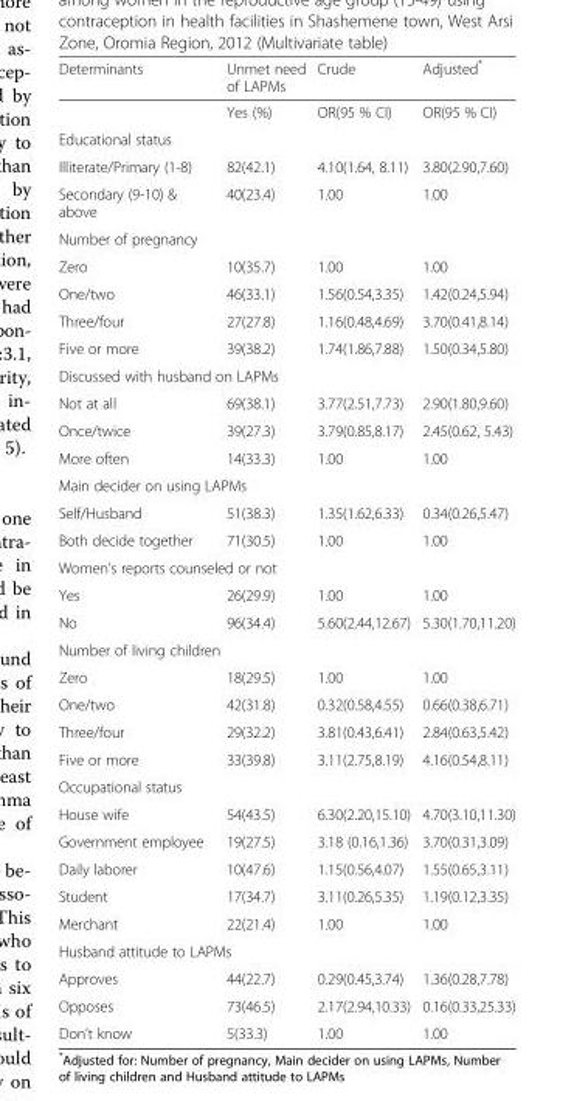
<table><thead><tr><td>Determinants</td><td>Unmet need of LAPMs</td><td>Crude</td><td>Adjusted*</td></tr></thead><tbody><tr><td></td><td>Yes (%)</td><td>OR(95 % CI)</td><td>OR(95 % CI)</td></tr><tr><td colspan="4">Educational status</td></tr><tr><td>Illiterate/Primary (1-8)</td><td>82(42.1)</td><td>4.10(1.64, 8.11)</td><td>3.80(2.90,7.60)</td></tr><tr><td>Secondary (9-10) &amp; above</td><td>40(23.4)</td><td>1.00</td><td>1.00</td></tr><tr><td colspan="4">Number of pregnancy</td></tr><tr><td>Zero</td><td>10(35.7)</td><td>1.00</td><td>1.00</td></tr><tr><td>One/two</td><td>46(33.1)</td><td>1.56(0.54,3.35)</td><td>1.42(0.24,5.94)</td></tr><tr><td>Three/four</td><td>27(27.8)</td><td>1.16(0.48,4.69)</td><td>3.70(0.41,8.14)</td></tr><tr><td>Five or more</td><td>39(38.2)</td><td>1.74(1.86,7.88)</td><td>1.50(0.34,5.80)</td></tr><tr><td colspan="4">Discussed with husband on LAPMs</td></tr><tr><td>Not at all</td><td>69(38.1)</td><td>3.77(2.51,7.73)</td><td>2.90(1.80,9.60)</td></tr><tr><td>Once/twice</td><td>39(27.3)</td><td>3.79(0.85,8.17)</td><td>2.45(0.62, 5.43)</td></tr><tr><td>More often</td><td>14(33.3)</td><td>1.00</td><td>1.00</td></tr><tr><td colspan="4">Main decider on using LAPMs</td></tr><tr><td>Self/Husband</td><td>51(38.3)</td><td>1.35(1.62,6.33)</td><td>0.34(0.26,5.47)</td></tr><tr><td>Both decide together</td><td>71(30.5)</td><td>1.00</td><td>1.00</td></tr><tr><td colspan="4">Women’s reports counseled or not</td></tr><tr><td>Yes</td><td>26(29.9)</td><td>1.00</td><td>1.00</td></tr><tr><td>No</td><td>96(34.4)</td><td>5.60(2.44,12.67)</td><td>5.30(1.70,11.20)</td></tr><tr><td colspan="4">Number of living children</td></tr><tr><td>Zero</td><td>18(29.5)</td><td>1.00</td><td>1.00</td></tr><tr><td>One/two</td><td>42(31.8)</td><td>0.32(0.58,4.55)</td><td>0.66(0.38,6.71)</td></tr><tr><td>Three/four</td><td>29(32.2)</td><td>3.81(0.43,6.41)</td><td>2.84(0.63,5.42)</td></tr><tr><td>Five or more</td><td>33(39.8)</td><td>3.11(2.75,8.19)</td><td>4.16(0.54,8.11)</td></tr><tr><td colspan="4">Occupational status</td></tr><tr><td>House wife</td><td>54(43.5)</td><td>6.30(2.20,15.10)</td><td>4.70(3.10,11.30)</td></tr><tr><td>Government employee</td><td>19(27.5)</td><td>3.18 (0.16,1.36)</td><td>3.70(0.31,3.09)</td></tr><tr><td>Daily laborer</td><td>10(47.6)</td><td>1.15(0.56,4.07)</td><td>1.55(0.65,3.11)</td></tr><tr><td>Student</td><td>17(34.7)</td><td>3.11(0.26,5.35)</td><td>1.19(0.12,3.35)</td></tr><tr><td>Merchant</td><td>22(21.4)</td><td>1.00</td><td>1.00</td></tr><tr><td colspan="4">Husband attitude to LAPMs</td></tr><tr><td>Approves</td><td>44(22.7)</td><td>0.29(0.45,3.74)</td><td>1.36(0.28,7.78)</td></tr><tr><td>Opposes</td><td>73(46.5)</td><td>2.17(2.94,10.33)</td><td>0.16(0.33,25.33)</td></tr><tr><td>Don’t know</td><td>5(33.3)</td><td>1.00</td><td>1.00</td></tr></tbody></table>